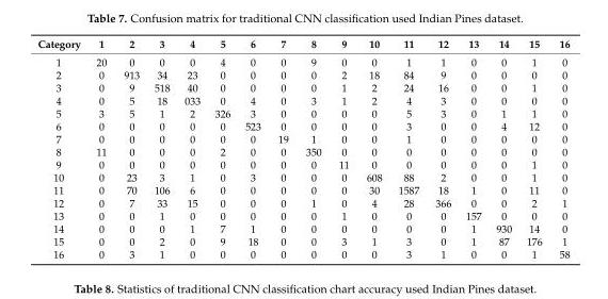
<table><thead><tr><td>Category</td><td>1</td><td>2</td><td>3</td><td>4</td><td>5</td><td>6</td><td>7</td><td>8</td><td>9</td><td>10</td><td>11</td><td>12</td><td>13</td><td>14</td><td>15</td><td>16</td></tr></thead><tbody><tr><td>1</td><td>20</td><td>0</td><td>0</td><td>0</td><td>4</td><td>0</td><td>0</td><td>9</td><td>0</td><td>0</td><td>1</td><td>1</td><td>0</td><td>0</td><td>1</td><td>0</td></tr><tr><td>2</td><td>0</td><td>913</td><td>34</td><td>23</td><td>0</td><td>0</td><td>0</td><td>0</td><td>2</td><td>18</td><td>84</td><td>9</td><td>0</td><td>0</td><td>0</td><td>0</td></tr><tr><td>3</td><td>0</td><td>9</td><td>518</td><td>40</td><td>0</td><td>0</td><td>0</td><td>0</td><td>1</td><td>2</td><td>24</td><td>16</td><td>0</td><td>0</td><td>1</td><td>0</td></tr><tr><td>4</td><td>0</td><td>5</td><td>18</td><td>033</td><td>0</td><td>4</td><td>0</td><td>3</td><td>1</td><td>2</td><td>4</td><td>3</td><td>0</td><td>0</td><td>0</td><td>0</td></tr><tr><td>5</td><td>3</td><td>5</td><td>1</td><td>2</td><td>326</td><td>3</td><td>0</td><td>0</td><td>0</td><td>0</td><td>5</td><td>3</td><td>0</td><td>1</td><td>1</td><td>0</td></tr><tr><td>6</td><td>0</td><td>0</td><td>0</td><td>0</td><td>0</td><td>523</td><td>0</td><td>0</td><td>0</td><td>0</td><td>3</td><td>0</td><td>0</td><td>4</td><td>12</td><td>0</td></tr><tr><td>7</td><td>0</td><td>0</td><td>0</td><td>0</td><td>0</td><td>0</td><td>19</td><td>1</td><td>0</td><td>0</td><td>1</td><td>0</td><td>0</td><td>0</td><td>0</td><td>0</td></tr><tr><td>8</td><td>11</td><td>0</td><td>0</td><td>0</td><td>2</td><td>0</td><td>0</td><td>350</td><td>0</td><td>0</td><td>0</td><td>0</td><td>0</td><td>0</td><td>0</td><td>0</td></tr><tr><td>9</td><td>0</td><td>0</td><td>0</td><td>0</td><td>0</td><td>0</td><td>0</td><td>0</td><td>11</td><td>0</td><td>0</td><td>0</td><td>0</td><td>0</td><td>1</td><td>0</td></tr><tr><td>10</td><td>0</td><td>23</td><td>3</td><td>1</td><td>0</td><td>3</td><td>0</td><td>0</td><td>0</td><td>608</td><td>88</td><td>2</td><td>0</td><td>0</td><td>1</td><td>0</td></tr><tr><td>11</td><td>0</td><td>70</td><td>106</td><td>6</td><td>0</td><td>0</td><td>0</td><td>0</td><td>0</td><td>30</td><td>1587</td><td>18</td><td>1</td><td>0</td><td>11</td><td>0</td></tr><tr><td>12</td><td>0</td><td>7</td><td>33</td><td>15</td><td>0</td><td>0</td><td>0</td><td>1</td><td>0</td><td>4</td><td>28</td><td>366</td><td>0</td><td>0</td><td>2</td><td>1</td></tr><tr><td>13</td><td>0</td><td>0</td><td>1</td><td>0</td><td>0</td><td>0</td><td>0</td><td>0</td><td>1</td><td>0</td><td>0</td><td>0</td><td>157</td><td>0</td><td>0</td><td>0</td></tr><tr><td>14</td><td>0</td><td>0</td><td>0</td><td>1</td><td>7</td><td>1</td><td>0</td><td>0</td><td>0</td><td>0</td><td>0</td><td>0</td><td>1</td><td>930</td><td>14</td><td>0</td></tr><tr><td>15</td><td>0</td><td>0</td><td>2</td><td>0</td><td>9</td><td>18</td><td>0</td><td>0</td><td>3</td><td>1</td><td>3</td><td>0</td><td>1</td><td>87</td><td>176</td><td>1</td></tr><tr><td>16</td><td>0</td><td>3</td><td>1</td><td>0</td><td>0</td><td>0</td><td>0</td><td>0</td><td>0</td><td>0</td><td>3</td><td>1</td><td>0</td><td>0</td><td>1</td><td>58</td></tr></tbody></table>